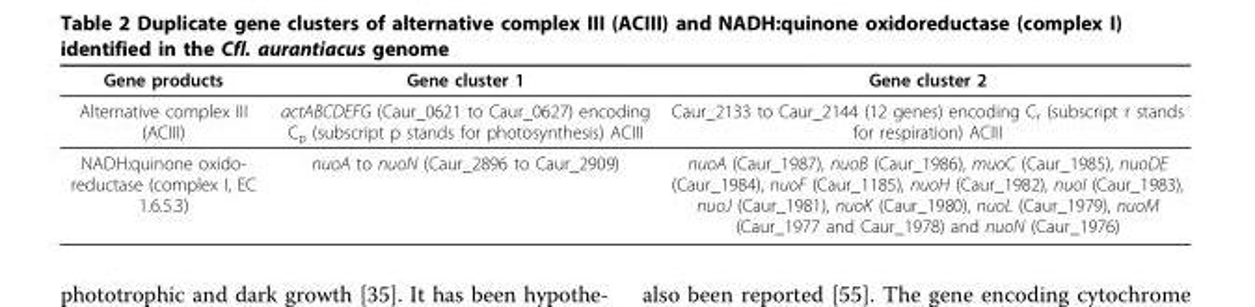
<table><thead><tr><td>Gene products</td><td>Gene cluster 1</td><td>Gene cluster 2</td></tr></thead><tbody><tr><td>Alternative complex III (ACIII)</td><td>actABCDEFG (Caur_0621 to Caur_0627) encoding C<sub>p</sub> (subscript p stands for photosynthesis) ACIII</td><td>Caur_2133 to Caur_2144 (12 genes) encoding C<sub>r</sub> (subscript r stands for respiration) ACIII</td></tr><tr><td>NADH:quinone oxido- reductase (complex I, EC 1.6.5.3)</td><td>nuoA to nuoN (Caur_2896 to Caur_2909)</td><td>nuoA (Caur_1987), nuoB (Caur_1986), muoC (Caur_1985), nuoDE (Caur_1984), nuoF (Caur_1185), nuoH (Caur_1982), nuoI (Caur_1983), nuoJ (Caur_1981), nuoK (Caur_1980), nuoL (Caur_1979), nuoM (Caur_1977 and Caur_1978) and nuoN (Caur_1976)</td></tr></tbody></table>